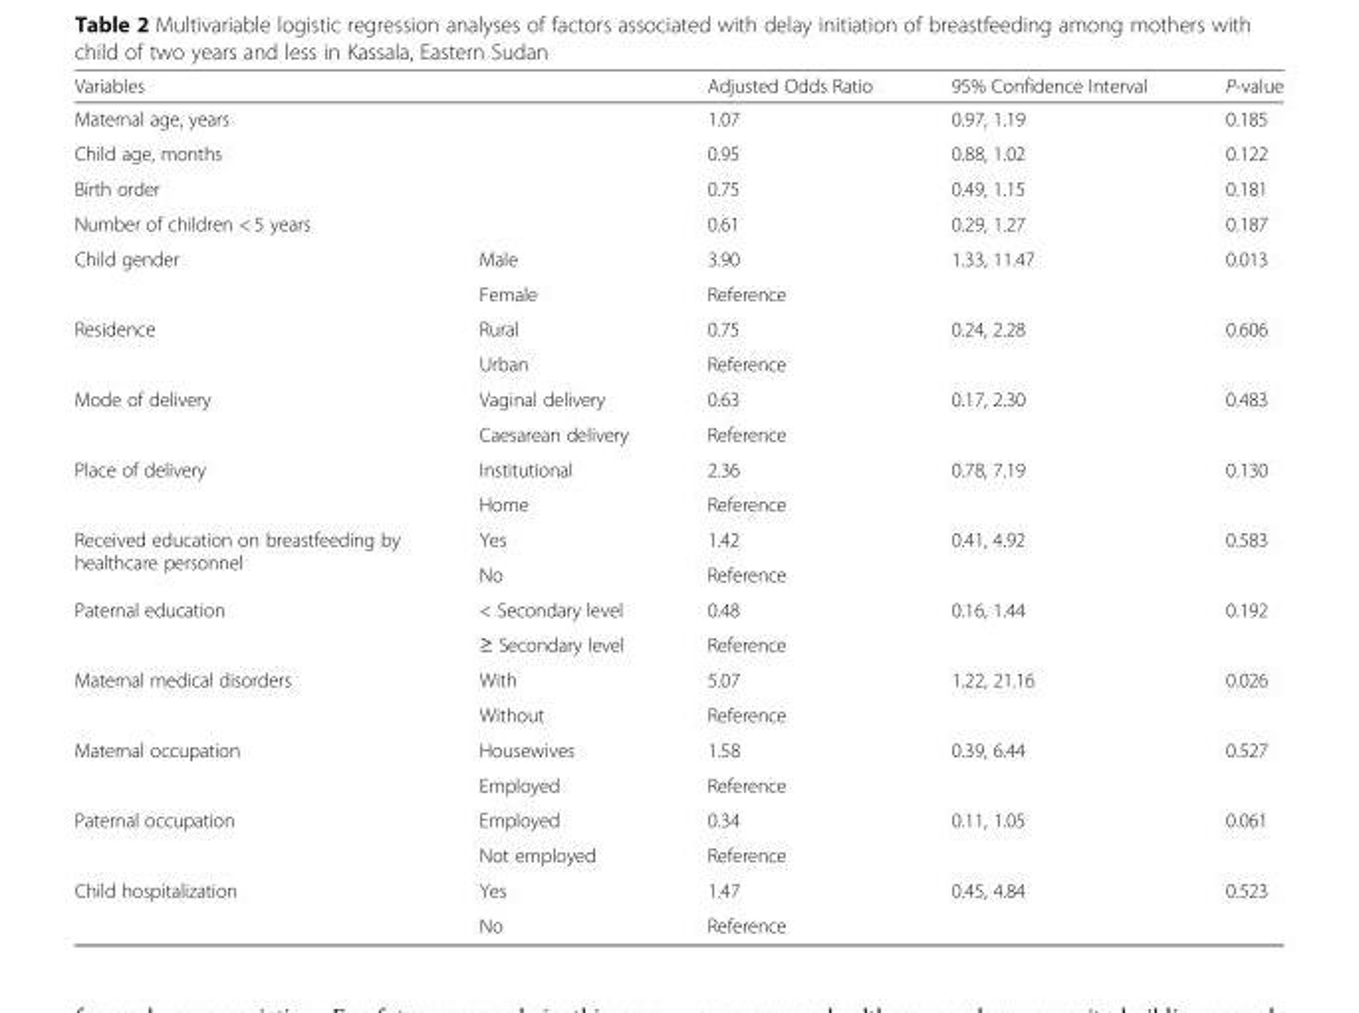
<table><thead><tr><td colspan="2">Variables</td><td rowspan="2">Adjusted Odds Ratio 1.07</td><td rowspan="2">95% Confidence Interval 0.97, 1.19</td><td rowspan="2">P-value 0.185</td></tr><tr><td>Maternal age, years</td><td></td></tr></thead><tbody><tr><td>Child age, months</td><td></td><td>0.95</td><td>0.88, 1.02</td><td>0.122</td></tr><tr><td>Birth order</td><td></td><td>0.75</td><td>0.49, 1.15</td><td>0.181</td></tr><tr><td>Number of children &lt; 5 years</td><td></td><td>0.61</td><td>0.29, 1.27</td><td>0.187</td></tr><tr><td rowspan="2">Child gender</td><td>Male</td><td>3.90</td><td rowspan="2">1.33, 11.47</td><td rowspan="2">0.013</td></tr><tr><td>Female</td><td>Reference</td></tr><tr><td rowspan="2">Residence</td><td>Rural</td><td>0.75</td><td rowspan="2">0.24, 2.28</td><td rowspan="2">0.606</td></tr><tr><td>Urban</td><td>Reference</td></tr><tr><td rowspan="2">Mode of delivery</td><td>Vaginal delivery</td><td>0.63</td><td rowspan="2">0.17, 2.30</td><td rowspan="2">0.483</td></tr><tr><td>Caesarean delivery</td><td>Reference</td></tr><tr><td rowspan="2">Place of delivery</td><td>Institutional</td><td>2.36</td><td rowspan="2">0.78, 7.19</td><td rowspan="2">0.130</td></tr><tr><td>Home</td><td>Reference</td></tr><tr><td rowspan="2">Received education on breastfeeding by healthcare personnel</td><td>Yes</td><td>1.42</td><td rowspan="2">0.41, 4.92</td><td rowspan="2">0.583</td></tr><tr><td>No</td><td>Reference</td></tr><tr><td rowspan="2">Paternal education</td><td>&lt; Secondary level</td><td>0.48</td><td rowspan="2">0.16, 1.44</td><td rowspan="2">0.192</td></tr><tr><td>≥ Secondary level</td><td>Reference</td></tr><tr><td rowspan="2">Maternal medical disorders</td><td>With</td><td>5.07</td><td rowspan="2">1.22, 21.16</td><td rowspan="2">0.026</td></tr><tr><td>Without</td><td>Reference</td></tr><tr><td rowspan="2">Maternal occupation</td><td>Housewives</td><td>1.58</td><td rowspan="2">0.39, 6.44</td><td rowspan="2">0.527</td></tr><tr><td>Employed</td><td>Reference</td></tr><tr><td rowspan="2">Paternal occupation</td><td>Employed</td><td>0.34</td><td rowspan="2">0.11, 1.05</td><td rowspan="2">0.061</td></tr><tr><td>Not employed</td><td>Reference</td></tr><tr><td rowspan="2">Child hospitalization</td><td>Yes</td><td>1.47</td><td rowspan="2">0.45, 4.84</td><td rowspan="2">0.523</td></tr><tr><td>No</td><td>Reference</td></tr></tbody></table>